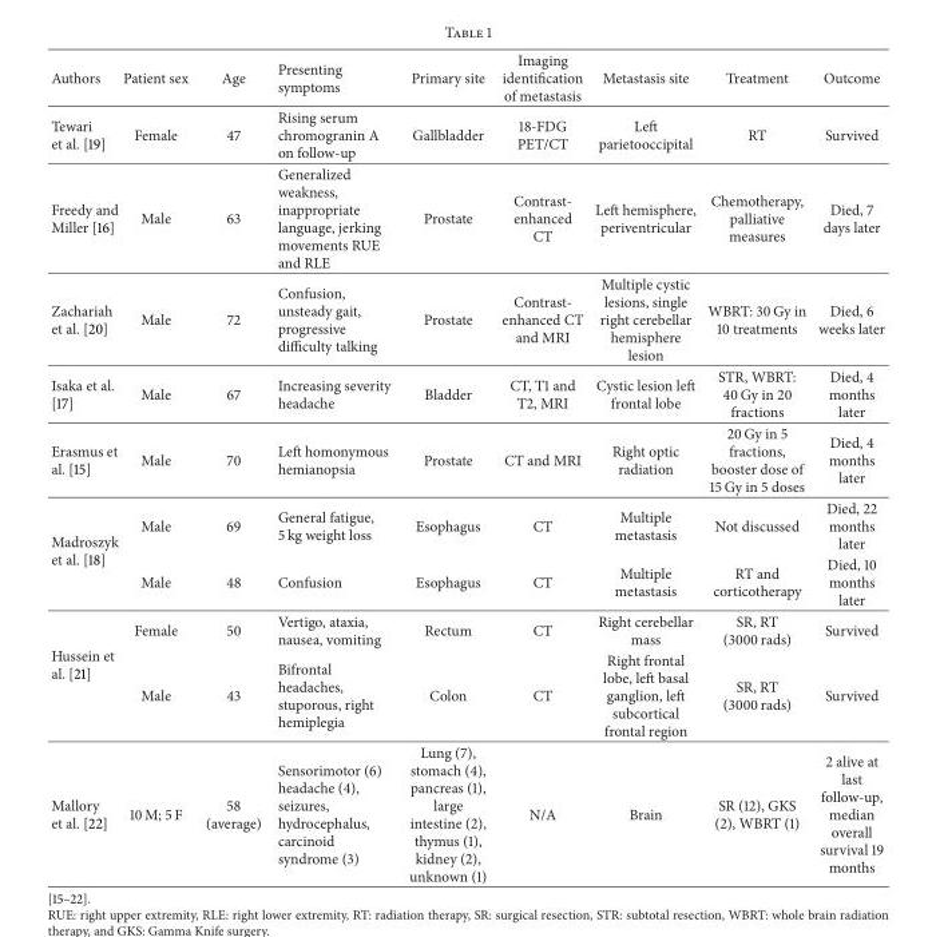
<table><thead><tr><td>Authors</td><td>Patient sex</td><td>Age</td><td>Presenting symptoms</td><td>Primary site</td><td>Imaging identification of metastasis</td><td>Metastasis site</td><td>Treatment</td><td>Outcome</td></tr></thead><tbody><tr><td>Tewari et al. [19]</td><td>Female</td><td>47</td><td>Rising serum chromogranin A on follow-up</td><td>Gallbladder</td><td>18-FDG PET/CT</td><td>Left parietooccipital</td><td>RT</td><td>Survived</td></tr><tr><td>Freedy and Miller [16]</td><td>Male</td><td>63</td><td>Generalized weakness, inappropriate language, jerking movements RUE and RLE</td><td>Prostate</td><td>Contrast- enhanced CT</td><td>Left hemisphere, periventricular</td><td>Chemotherapy, palliative measures</td><td>Died, 7 days later</td></tr><tr><td>Zachariah et al. [20]</td><td>Male</td><td>72</td><td>Confusion, unsteady gait, progressive difficulty talking</td><td>Prostate</td><td>Contrast- enhanced CT and MRI</td><td>Multiple cystic lesions, single right cerebellar hemisphere lesion</td><td>WBRT: 30 Gy in 10 treatments</td><td>Died, 6 weeks later</td></tr><tr><td>Isaka et al. [17]</td><td>Male</td><td>67</td><td>Increasing severity headache</td><td>Bladder</td><td>CT, T1 and T2, MRI</td><td>Cystic lesion left frontal lobe</td><td>STR, WBRT: 40 Gy in 20 fractions</td><td>Died, 4 months later</td></tr><tr><td>Erasmus et al. [15]</td><td>Male</td><td>70</td><td>Left homonymous hemianopsia</td><td>Prostate</td><td>CT and MRI</td><td>Right optic radiation</td><td>20 Gy in 5 fractions, booster dose of 15 Gy in 5 doses</td><td>Died, 4 months later</td></tr><tr><td rowspan="2">Madroszyk et al. [18]</td><td>Male</td><td>69</td><td>General fatigue, 5 kg weight loss</td><td>Esophagus</td><td>CT</td><td>Multiple metastasis</td><td>Not discussed</td><td>Died, 22 months later</td></tr><tr><td>Male</td><td>48</td><td>Confusion</td><td>Esophagus</td><td>CT</td><td>Multiple metastasis</td><td>RT and corticotherapy</td><td>Died, 10 months later</td></tr><tr><td rowspan="2">Hussein et al. [21]</td><td>Female</td><td>50</td><td>Vertigo, ataxia, nausea, vomiting</td><td>Rectum</td><td>CT</td><td>Right cerebellar mass</td><td>SR, RT (3000 rads)</td><td>Survived</td></tr><tr><td>Male</td><td>43</td><td>Bifrontal headaches, stuporous, right hemiplegia</td><td>Colon</td><td>CT</td><td>Right frontal lobe, left basal ganglion, left subcortical frontal region</td><td>SR, RT (3000 rads)</td><td>Survived</td></tr><tr><td>Mallory et al. [22]</td><td>10 M; 5 F</td><td>58 (average)</td><td>Sensorimotor (6) headache (4), seizures, hydrocephalus, carcinoid syndrome (3)</td><td>Lung (7), stomach (4), pancreas (1), large intestine (2), thymus (1), kidney (2), unknown (1)</td><td>N/A</td><td>Brain</td><td>SR (12), GKS (2), WBRT (1)</td><td>2 alive at last follow-up, median overall survival 19 months</td></tr></tbody></table>